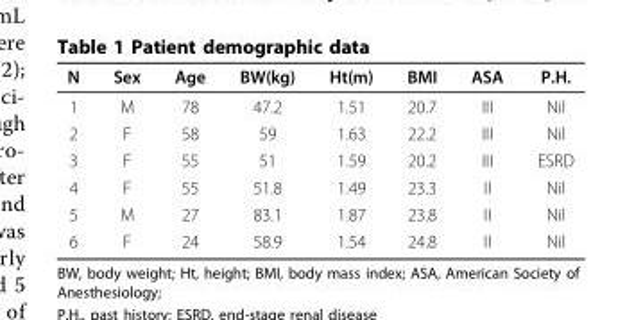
<table><thead><tr><td>N</td><td>Sex</td><td>Age</td><td>BW(kg)</td><td>Ht(m)</td><td>BMI</td><td>ASA</td><td>P.H.</td></tr></thead><tbody><tr><td>1</td><td>M</td><td>78</td><td>47.2</td><td>1.51</td><td>20.7</td><td>III</td><td>Nil</td></tr><tr><td>2</td><td>F</td><td>58</td><td>59</td><td>1.63</td><td>22.2</td><td>III</td><td>Nil</td></tr><tr><td>3</td><td>F</td><td>55</td><td>51</td><td>1.59</td><td>20.2</td><td>III</td><td>ESRD</td></tr><tr><td>4</td><td>F</td><td>55</td><td>51.8</td><td>1.49</td><td>23.3</td><td>II</td><td>Nil</td></tr><tr><td>5</td><td>M</td><td>27</td><td>83.1</td><td>1.87</td><td>23.8</td><td>II</td><td>Nil</td></tr><tr><td>6</td><td>F</td><td>24</td><td>58.9</td><td>1.54</td><td>24.8</td><td>II</td><td>Nil</td></tr></tbody></table>